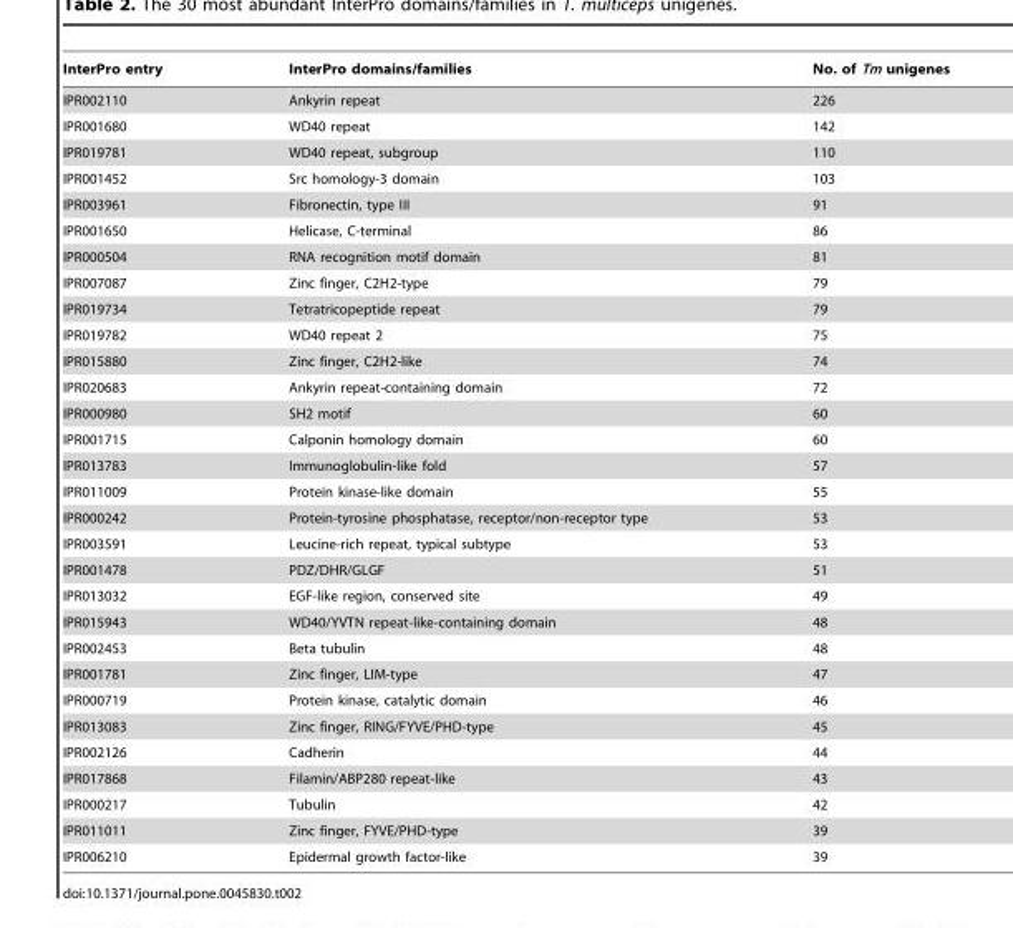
<table><thead><tr><td>InterPro entry</td><td>InterPro domains/families</td><td>No. of Tm unigenes</td></tr></thead><tbody><tr><td>IPR002110</td><td>Ankyrin repeat</td><td>226</td></tr><tr><td>IPR001680</td><td>WD40 repeat</td><td>142</td></tr><tr><td>IPR019781</td><td>WD40 repeat, subgroup</td><td>110</td></tr><tr><td>IPR001452</td><td>Src homology-3 domain</td><td>103</td></tr><tr><td>IPR003961</td><td>Fibronectin, type III</td><td>91</td></tr><tr><td>IPR001650</td><td>Helicase, C-terminal</td><td>86</td></tr><tr><td>IPR000504</td><td>RNA recognition motif domain</td><td>81</td></tr><tr><td>IPR007087</td><td>Zinc finger, C2H2-type</td><td>79</td></tr><tr><td>IPR019734</td><td>Tetratricopeptide repeat</td><td>79</td></tr><tr><td>IPR019782</td><td>WD40 repeat 2</td><td>75</td></tr><tr><td>IPR015880</td><td>Zinc finger, C2H2-like</td><td>74</td></tr><tr><td>IPR020683</td><td>Ankyrin repeat-containing domain</td><td>72</td></tr><tr><td>IPR000980</td><td>SH2 motif</td><td>60</td></tr><tr><td>IPR001715</td><td>Calponin homology domain</td><td>60</td></tr><tr><td>IPR013783</td><td>Immunoglobulin-like fold</td><td>57</td></tr><tr><td>IPR011009</td><td>Protein kinase-like domain</td><td>55</td></tr><tr><td>IPR000242</td><td>Protein-tyrosine phosphatase, receptor/non-receptor type</td><td>53</td></tr><tr><td>IPR003591</td><td>Leucine-rich repeat, typical subtype</td><td>53</td></tr><tr><td>IPR001478</td><td>PDZ/DHR/GLGF</td><td>51</td></tr><tr><td>IPR013032</td><td>EGF-like region, conserved site</td><td>49</td></tr><tr><td>IPR015943</td><td>WD40/YVTN repeat-like-containing domain</td><td>48</td></tr><tr><td>IPR002453</td><td>Beta tubulin</td><td>48</td></tr><tr><td>IPR001781</td><td>Zinc finger, LIM-type</td><td>47</td></tr><tr><td>IPR000719</td><td>Protein kinase, catalytic domain</td><td>46</td></tr><tr><td>IPR013083</td><td>Zinc finger, RING/FYVE/PHD-type</td><td>45</td></tr><tr><td>IPR002126</td><td>Cadherin</td><td>44</td></tr><tr><td>IPR017868</td><td>Filamin/ABP280 repeat-like</td><td>43</td></tr><tr><td>IPR000217</td><td>Tubulin</td><td>42</td></tr><tr><td>IPR011011</td><td>Zinc finger, FYVE/PHD-type</td><td>39</td></tr><tr><td>IPR006210</td><td>Epidermal growth factor-like</td><td>39</td></tr></tbody></table>